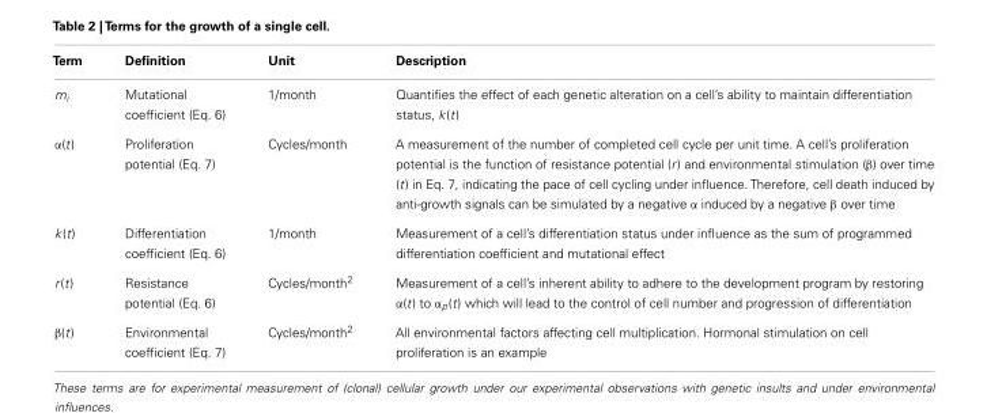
<table><thead><tr><td>Term</td><td>Definition</td><td>Unit</td><td>Description</td></tr></thead><tbody><tr><td>m<sub>i</sub></td><td>Mutational coefficient (Eq. 6)</td><td>1/month</td><td>Quantifies the effect of each genetic alteration on a cell’s ability to maintain differentiation status, k(t)</td></tr><tr><td>α(t)</td><td>Proliferation potential (Eq. 7)</td><td>Cycles/month</td><td>A measurement of the number of completed cell cycle per unit time. A cell’s proliferation potential is the function of resistance potential (r) and environmental stimulation (β) over time (t) in Eq. 7, indicating the pace of cell cycling under influence.Therefore, cell death induced by anti-growth signals can be simulated by a negative α induced by a negative β over time</td></tr><tr><td>k(t)</td><td>Differentiation coefficient (Eq. 6)</td><td>1/month</td><td>Measurement of a cell’s differentiation status under influence as the sum of programmed differentiation coefficient and mutational effect</td></tr><tr><td>r(t)</td><td>Resistance potential (Eq. 6)</td><td>Cycles/month<sup>2</sup></td><td>Measurement of a cell’s inherent ability to adhere to the development program by restoring α(t) to α<sub>p</sub>(t) which will lead to the control of cell number and progression of differentiation</td></tr><tr><td>β(t)</td><td>Environmental coefficient (Eq. 7)</td><td>Cycles/month<sup>2</sup></td><td>All environmental factors affecting cell multiplication. Hormonal stimulation on cell proliferation is an example</td></tr></tbody></table>